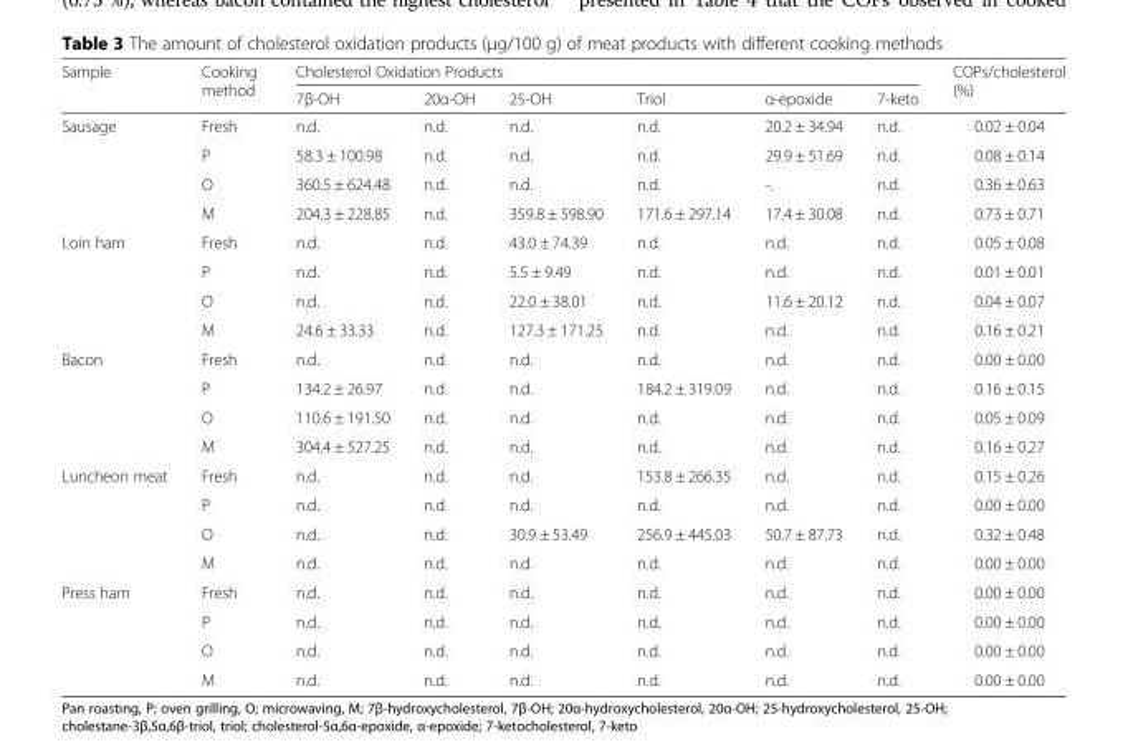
<table><thead><tr><td rowspan="2">Sample</td><td rowspan="2">Cooking method</td><td colspan="6">Cholesterol Oxidation Products</td><td rowspan="2">COPs/cholesterol (%)</td></tr><tr><td>7β-OH</td><td>20α-OH</td><td>25-OH</td><td>Triol</td><td>α-epoxide</td><td>7-keto</td></tr></thead><tbody><tr><td rowspan="4">Sausage</td><td>Fresh</td><td>n.d.</td><td>n.d.</td><td>n.d.</td><td>n.d.</td><td>20.2 ± 34.94</td><td>n.d.</td><td>0.02 ± 0.04</td></tr><tr><td>P</td><td>58.3 ± 100.98</td><td>n.d.</td><td>n.d.</td><td>n.d.</td><td>29.9 ± 51.69</td><td>n.d.</td><td>0.08 ± 0.14</td></tr><tr><td>O</td><td>360.5 ± 624.48</td><td>n.d.</td><td>n.d.</td><td>n.d.</td><td>-.</td><td>n.d.</td><td>0.36 ± 0.63</td></tr><tr><td>M</td><td>204.3 ± 228.85</td><td>n.d.</td><td>359.8 ± 598.90</td><td>171.6 ± 297.14</td><td>17.4 ± 30.08</td><td>n.d.</td><td>0.73 ± 0.71</td></tr><tr><td rowspan="4">Loin ham</td><td>Fresh</td><td>n.d.</td><td>n.d.</td><td>43.0 ± 74.39</td><td>n.d.</td><td>n.d.</td><td>n.d.</td><td>0.05 ± 0.08</td></tr><tr><td>P</td><td>n.d.</td><td>n.d.</td><td>5.5 ± 9.49</td><td>n.d.</td><td>n.d.</td><td>n.d.</td><td>0.01 ± 0.01</td></tr><tr><td>O</td><td>n.d.</td><td>n.d.</td><td>22.0 ± 38.01</td><td>n.d.</td><td>11.6 ± 20.12</td><td>n.d.</td><td>0.04 ± 0.07</td></tr><tr><td>M</td><td>24.6 ± 33.33</td><td>n.d.</td><td>127.3 ± 171.25</td><td>n.d.</td><td>n.d.</td><td>n.d.</td><td>0.16 ± 0.21</td></tr><tr><td rowspan="4">Bacon</td><td>Fresh</td><td>n.d.</td><td>n.d.</td><td>n.d.</td><td>n.d.</td><td>n.d.</td><td>n.d.</td><td>0.00 ± 0.00</td></tr><tr><td>P</td><td>134.2 ± 26.97</td><td>n.d.</td><td>n.d.</td><td>184.2 ± 319.09</td><td>n.d.</td><td>n.d.</td><td>0.16 ± 0.15</td></tr><tr><td>O</td><td>110.6 ± 191.50</td><td>n.d.</td><td>n.d.</td><td>n.d.</td><td>n.d.</td><td>n.d.</td><td>0.05 ± 0.09</td></tr><tr><td>M</td><td>304.4 ± 527.25</td><td>n.d.</td><td>n.d.</td><td>n.d.</td><td>n.d.</td><td>n.d.</td><td>0.16 ± 0.27</td></tr><tr><td rowspan="4">Luncheon meat</td><td>Fresh</td><td>n.d.</td><td>n.d.</td><td>n.d.</td><td>153.8 ± 266.35</td><td>n.d.</td><td>n.d.</td><td>0.15 ± 0.26</td></tr><tr><td>P</td><td>n.d.</td><td>n.d.</td><td>n.d.</td><td>n.d.</td><td>n.d.</td><td>n.d.</td><td>0.00 ± 0.00</td></tr><tr><td>O</td><td>n.d.</td><td>n.d.</td><td>30.9 ± 53.49</td><td>256.9 ± 445.03</td><td>50.7 ± 87.73</td><td>n.d.</td><td>0.32 ± 0.48</td></tr><tr><td>M</td><td>n.d.</td><td>n.d.</td><td>n.d.</td><td>n.d.</td><td>n.d.</td><td>n.d.</td><td>0.00 ± 0.00</td></tr><tr><td rowspan="4">Press ham</td><td>Fresh</td><td>n.d.</td><td>n.d.</td><td>n.d.</td><td>n.d.</td><td>n.d.</td><td>n.d.</td><td>0.00 ± 0.00</td></tr><tr><td>P</td><td>n.d.</td><td>n.d.</td><td>n.d.</td><td>n.d.</td><td>n.d.</td><td>n.d.</td><td>0.00 ± 0.00</td></tr><tr><td>O</td><td>n.d.</td><td>n.d.</td><td>n.d.</td><td>n.d.</td><td>n.d.</td><td>n.d.</td><td>0.00 ± 0.00</td></tr><tr><td>M</td><td>n.d.</td><td>n.d.</td><td>n.d.</td><td>n.d.</td><td>n.d.</td><td>n.d.</td><td>0.00 ± 0.00</td></tr></tbody></table>